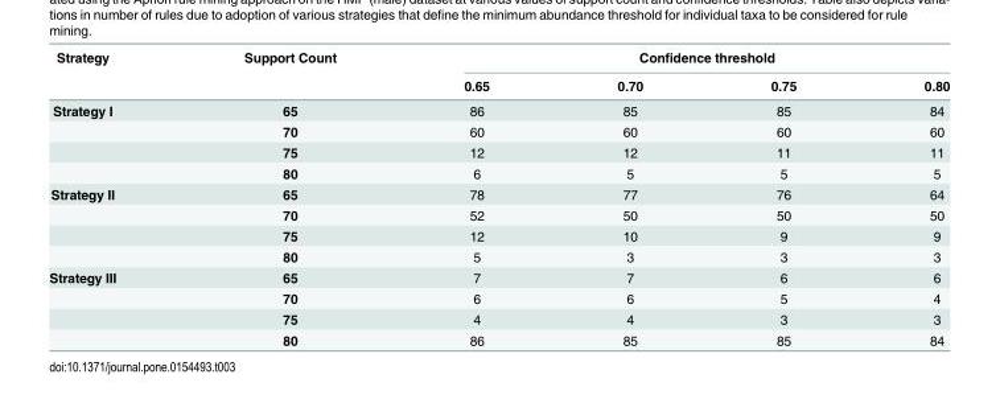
<table><thead><tr><td rowspan="2">Strategy</td><td rowspan="2">Support Count</td><td colspan="4">Confidence threshold</td></tr><tr><td>0.65</td><td>0.70</td><td>0.75</td><td>0.80</td></tr></thead><tbody><tr><td rowspan="4">Strategy I</td><td>65</td><td>86</td><td>85</td><td>85</td><td>84</td></tr><tr><td>70</td><td>60</td><td>60</td><td>60</td><td>60</td></tr><tr><td>75</td><td>12</td><td>12</td><td>11</td><td>11</td></tr><tr><td>80</td><td>6</td><td>5</td><td>5</td><td>5</td></tr><tr><td rowspan="4">Strategy II</td><td>65</td><td>78</td><td>77</td><td>76</td><td>64</td></tr><tr><td>70</td><td>52</td><td>50</td><td>50</td><td>50</td></tr><tr><td>75</td><td>12</td><td>10</td><td>9</td><td>9</td></tr><tr><td>80</td><td>5</td><td>3</td><td>3</td><td>3</td></tr><tr><td rowspan="4">Strategy III</td><td>65</td><td>7</td><td>7</td><td>6</td><td>6</td></tr><tr><td>70</td><td>6</td><td>6</td><td>5</td><td>4</td></tr><tr><td>75</td><td>4</td><td>4</td><td>3</td><td>3</td></tr><tr><td>80</td><td>86</td><td>85</td><td>85</td><td>84</td></tr></tbody></table>